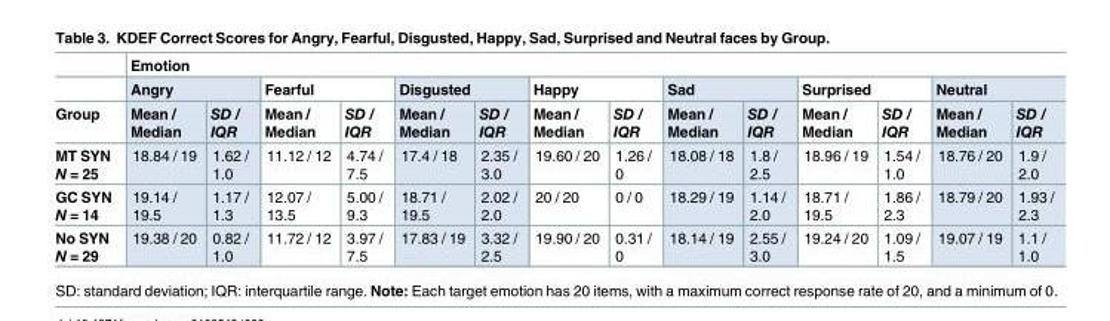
<table><thead><tr><td rowspan="3">Group</td><td colspan="14">Emotion</td></tr><tr><td colspan="2">Angry</td><td colspan="2">Fearful</td><td colspan="2">Disgusted</td><td colspan="2">Happy</td><td colspan="2">Sad</td><td colspan="2">Surprised</td><td colspan="2">Neutral</td></tr><tr><td>Mean / Median</td><td>SD / IQR</td><td>Mean / Median</td><td>SD / IQR</td><td>Mean / Median</td><td>SD / IQR</td><td>Mean / Median</td><td>SD / IQR</td><td>Mean / Median</td><td>SD / IQR</td><td>Mean / Median</td><td>SD / IQR</td><td>Mean / Median</td><td>SD / IQR</td></tr></thead><tbody><tr><td>MT SYN N = 25</td><td>18.84 / 19</td><td>1.62 / 1.0</td><td>11.12 / 12</td><td>4.74 / 7.5</td><td>17.4 / 18</td><td>2.35 / 3.0</td><td>19.60 / 20</td><td>1.26 / 0</td><td>18.08 / 18</td><td>1.8 / 2.5</td><td>18.96 / 19</td><td>1.54 / 1.0</td><td>18.76 / 20</td><td>1.9 / 2.0</td></tr><tr><td>GC SYN N = 14</td><td>19.14 / 19.5</td><td>1.17 / 1.3</td><td>12.07 / 13.5</td><td>5.00 / 9.3</td><td>18.71 / 19.5</td><td>2.02 / 2.0</td><td>20 / 20</td><td>0 / 0</td><td>18.29 / 19</td><td>1.14 / 2.0</td><td>18.71 / 19.5</td><td>1.86 / 2.3</td><td>18.79 / 20</td><td>1.93 / 2.3</td></tr><tr><td>No SYN N = 29</td><td>19.38 / 20</td><td>0.82 / 1.0</td><td>11.72 / 12</td><td>3.97 / 7.5</td><td>17.83 / 19</td><td>3.32 / 2.5</td><td>19.90 / 20</td><td>0.31 / 0</td><td>18.14 / 19</td><td>2.55 / 3.0</td><td>19.24 / 20</td><td>1.09 / 1.5</td><td>19.07 / 19</td><td>1.1 / 1.0</td></tr></tbody></table>